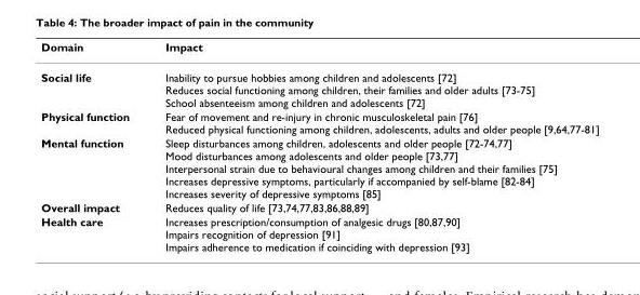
<table><thead><tr><td>Domain</td><td>Impact</td></tr></thead><tbody><tr><td>Social life</td><td>Inability to pursue hobbies among children and adolescents [72] Reduces social functioning among children, their families and older adults [73-75] School absenteeism among children and adolescents [72]</td></tr><tr><td>Physical function</td><td>Fear of movement and re-injury in chronic musculoskeletal pain [76] Reduced physical functioning among children, adolescents, adults and older people [9,64,77-81]</td></tr><tr><td>Mental function</td><td>Sleep disturbances among children, adolescents and older people [72-74,77] Mood disturbances among adolescents and older people [73,77] Interpersonal strain due to behavioural changes among children and their families [75] Increases depressive symptoms, particularly if accompanied by self-blame [82-84] Increases severity of depressive symptoms [85]</td></tr><tr><td>Overall impact</td><td>Reduces quality of life [73,74,77,83,86,88,89]</td></tr><tr><td>Health care</td><td>Increases prescription/consumption of analgesic drugs [80,87,90] Impairs recognition of depression [91] Impairs adherence to medication if coinciding with depression [93]</td></tr></tbody></table>